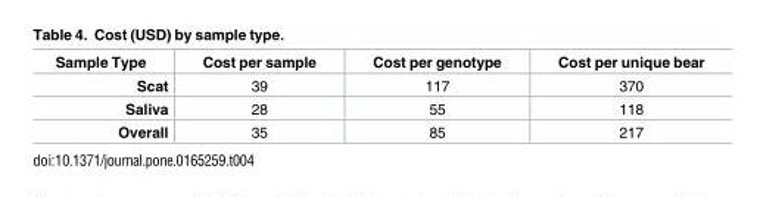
<table><thead><tr><td>Sample Type</td><td>Cost per sample</td><td>Cost per genotype</td><td>Cost per unique bear</td></tr></thead><tbody><tr><td>Scat</td><td>39</td><td>117</td><td>370</td></tr><tr><td>Saliva</td><td>28</td><td>55</td><td>118</td></tr><tr><td>Overall</td><td>35</td><td>85</td><td>217</td></tr></tbody></table>